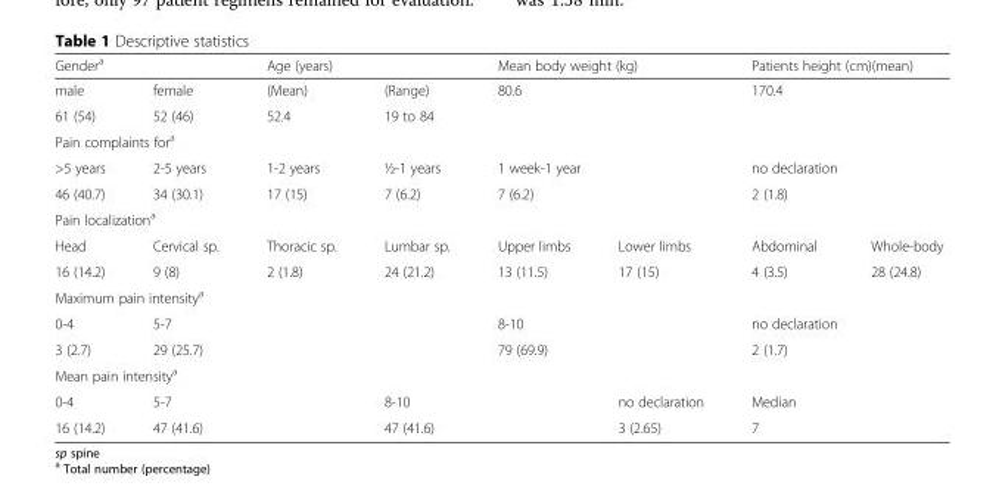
<table><thead><tr><td colspan="2">Gender<sup>a</sup></td><td colspan="2">Age (years)</td><td colspan="2">Mean body weight (kg)</td><td colspan="2">Patients height (cm)(mean)</td></tr></thead><tbody><tr><td>male</td><td>female</td><td>(Mean)</td><td>(Range)</td><td rowspan="2" colspan="2">80.6</td><td rowspan="2" colspan="2">170.4</td></tr><tr><td>61 (54)</td><td>52 (46)</td><td>52.4</td><td>19 to 84</td></tr><tr><td colspan="8">Pain complaints for<sup>a</sup></td></tr><tr><td>&gt;5 years</td><td>2-5 years</td><td>1-2 years</td><td>½-1 years</td><td colspan="2">1 week-1 year</td><td colspan="2">no declaration</td></tr><tr><td>46 (40.7)</td><td>34 (30.1)</td><td>17 (15)</td><td>7 (6.2)</td><td colspan="2">7 (6.2)</td><td colspan="2">2 (1.8)</td></tr><tr><td colspan="8">Pain localization<sup>a</sup></td></tr><tr><td>Head</td><td>Cervical sp.</td><td>Thoracic sp.</td><td>Lumbar sp.</td><td>Upper limbs</td><td>Lower limbs</td><td>Abdominal</td><td>Whole-body</td></tr><tr><td>16 (14.2)</td><td>9 (8)</td><td>2 (1.8)</td><td>24 (21.2)</td><td>13 (11.5)</td><td>17 (15)</td><td>4 (3.5)</td><td>28 (24.8)</td></tr><tr><td colspan="8">Maximum pain intensity<sup>a</sup></td></tr><tr><td>0-4</td><td colspan="3">5-7</td><td colspan="2">8-10</td><td colspan="2">no declaration</td></tr><tr><td>3 (2.7)</td><td colspan="3">29 (25.7)</td><td colspan="2">79 (69.9)</td><td colspan="2">2 (1.7)</td></tr><tr><td colspan="8">Mean pain intensity<sup>a</sup></td></tr><tr><td>0-4</td><td colspan="2">5-7</td><td colspan="2">8-10</td><td>no declaration</td><td colspan="2">Median</td></tr><tr><td>16 (14.2)</td><td colspan="2">47 (41.6)</td><td colspan="2">47 (41.6)</td><td>3 (2.65)</td><td colspan="2">7</td></tr></tbody></table>